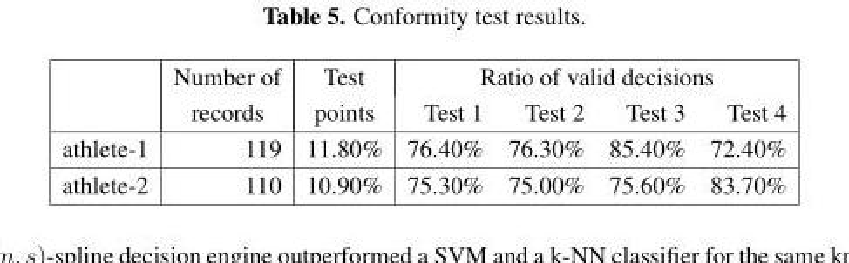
<table><thead><tr><td rowspan="2"></td><td rowspan="2">Number of records</td><td rowspan="2">Test points</td><td colspan="4">Ratio of valid decisions</td></tr><tr><td>Test 1</td><td>Test 2</td><td>Test 3</td><td>Test 4</td></tr></thead><tbody><tr><td>athlete-1</td><td>119</td><td>11.80%</td><td>76.40%</td><td>76.30%</td><td>85.40%</td><td>72.40%</td></tr><tr><td>athlete-2</td><td>110</td><td>10.90%</td><td>75.30%</td><td>75.00%</td><td>75.60%</td><td>83.70%</td></tr></tbody></table>